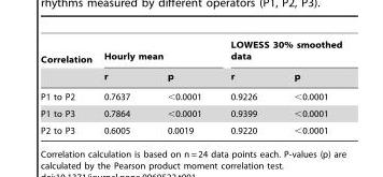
<table><thead><tr><td rowspan="2">Correlation</td><td colspan="2">Hourly mean</td><td colspan="2">LOWESS 30% smoothed data</td></tr><tr><td>r</td><td>p</td><td>r</td><td>p</td></tr></thead><tbody><tr><td>P1 to P2</td><td>0.7637</td><td>&lt;0.0001</td><td>0.9226</td><td>&lt;0.0001</td></tr><tr><td>P1 to P3</td><td>0.7864</td><td>&lt;0.0001</td><td>0.9399</td><td>&lt;0.0001</td></tr><tr><td>P2 to P3</td><td>0.6005</td><td>0.0019</td><td>0.9220</td><td>&lt;0.0001</td></tr></tbody></table>